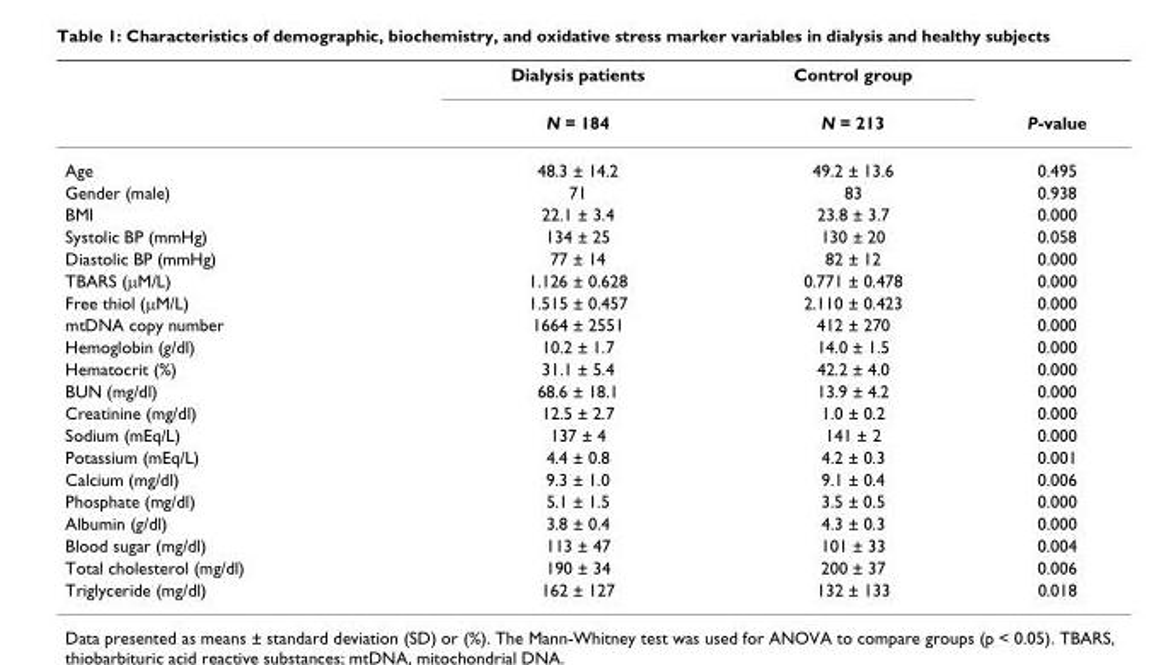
<table><thead><tr><td rowspan="2"></td><td rowspan="2">Dialysis patients N = 184</td><td rowspan="2">Control group N = 213</td><td rowspan="2">P-value</td></tr><tr></tr></thead><tbody><tr><td>Age</td><td>48.3 ± 14.2</td><td>49.2 ± 13.6</td><td>0.495</td></tr><tr><td>Gender (male)</td><td>71</td><td>83</td><td>0.938</td></tr><tr><td>BMI</td><td>22.1 ± 3.4</td><td>23.8 ± 3.7</td><td>0.000</td></tr><tr><td>Systolic BP (mmHg)</td><td>134 ± 25</td><td>130 ± 20</td><td>0.058</td></tr><tr><td>Diastolic BP (mmHg)</td><td>77 ± 14</td><td>82 ± 12</td><td>0.000</td></tr><tr><td>TBARS (μM/L)</td><td>1.126 ± 0.628</td><td>0.771 ± 0.478</td><td>0.000</td></tr><tr><td>Free thiol (μM/L)</td><td>1.515 ± 0.457</td><td>2.110 ± 0.423</td><td>0.000</td></tr><tr><td>mtDNA copy number</td><td>1664 ± 2551</td><td>412 ± 270</td><td>0.000</td></tr><tr><td>Hemoglobin (g/dl)</td><td>10.2 ± 1.7</td><td>14.0 ± 1.5</td><td>0.000</td></tr><tr><td>Hematocrit (%)</td><td>31.1 ± 5.4</td><td>42.2 ± 4.0</td><td>0.000</td></tr><tr><td>BUN (mg/dl)</td><td>68.6 ± 18.1</td><td>13.9 ± 4.2</td><td>0.000</td></tr><tr><td>Creatinine (mg/dl)</td><td>12.5 ± 2.7</td><td>1.0 ± 0.2</td><td>0.000</td></tr><tr><td>Sodium (mEq/L)</td><td>137 ± 4</td><td>141 ± 2</td><td>0.000</td></tr><tr><td>Potassium (mEq/L)</td><td>4.4 ± 0.8</td><td>4.2 ± 0.3</td><td>0.001</td></tr><tr><td>Calcium (mg/dl)</td><td>9.3 ± 1.0</td><td>9.1 ± 0.4</td><td>0.006</td></tr><tr><td>Phosphate (mg/dl)</td><td>5.1 ± 1.5</td><td>3.5 ± 0.5</td><td>0.000</td></tr><tr><td>Albumin (g/dl)</td><td>3.8 ± 0.4</td><td>4.3 ± 0.3</td><td>0.000</td></tr><tr><td>Blood sugar (mg/dl)</td><td>113 ± 47</td><td>101 ± 33</td><td>0.004</td></tr><tr><td>Total cholesterol (mg/dl)</td><td>190 ± 34</td><td>200 ± 37</td><td>0.006</td></tr><tr><td>Triglyceride (mg/dl)</td><td>162 ± 127</td><td>132 ± 133</td><td>0.018</td></tr></tbody></table>